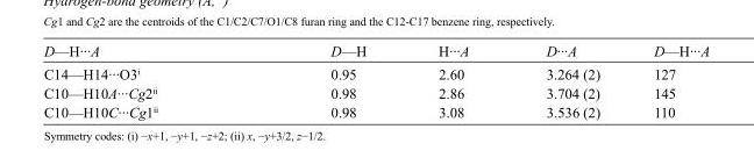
<table><tbody><tr><td>D—H···A</td><td>D—H</td><td>H···A</td><td>D···A</td><td>D—H···A</td></tr><tr><td>C14—H14···O3<sup>i</sup></td><td>0.95</td><td>2.60</td><td>3.264 (2)</td><td>127</td></tr><tr><td>C10—H10A···Cg2<sup>ii</sup></td><td>0.98</td><td>2.86</td><td>3.704 (2)</td><td>145</td></tr><tr><td>C10—H10C···Cg1<sup>ii</sup></td><td>0.98</td><td>3.08</td><td>3.536 (2)</td><td>110</td></tr></tbody></table>